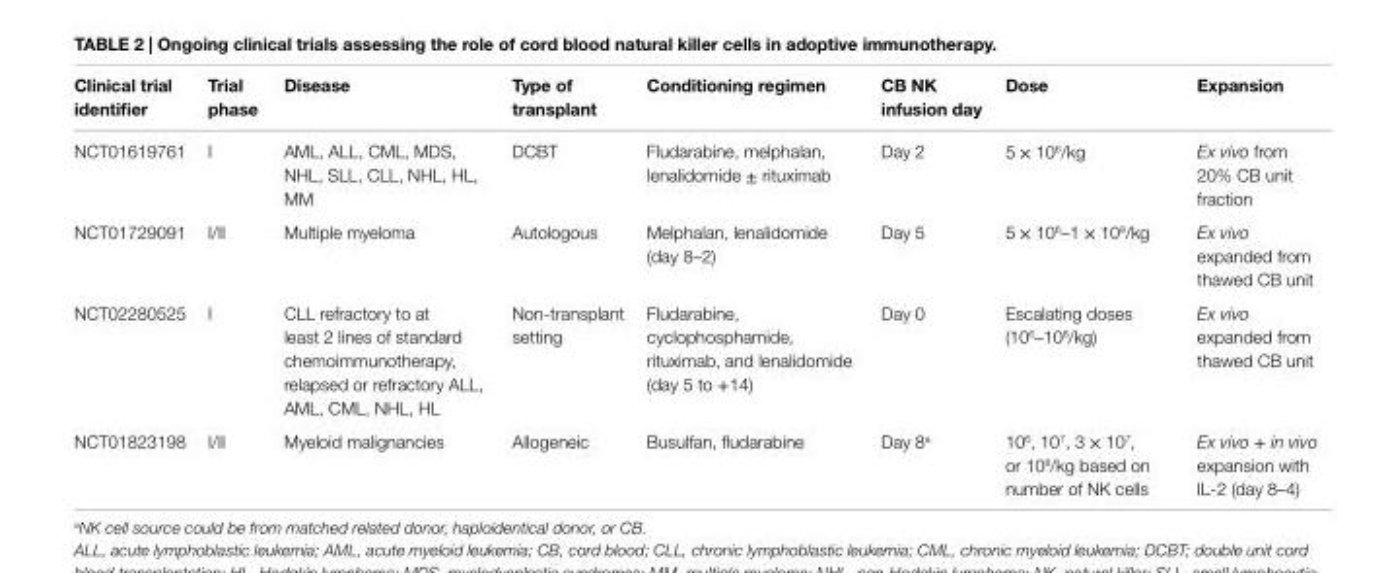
<table><thead><tr><td>Clinical trial identifier</td><td>Trial phase</td><td>Disease</td><td>Type of transplant</td><td>Conditioning regimen</td><td>CB nK infusion day</td><td>Dose</td><td>expansion</td></tr></thead><tbody><tr><td>NCT01619761</td><td>I</td><td>AML, ALL, CML, MDS, NHL, SLL, CLL, NHL, HL, MM</td><td>DCBT</td><td>Fludarabine, melphalan, lenalidomide ± rituximab</td><td>Day 2</td><td>5 × 10<sup>6</sup>/kg</td><td>Ex vivo from 20% CB unit fraction</td></tr><tr><td>NCT01729091</td><td>I/II</td><td>Multiple myeloma</td><td>Autologous</td><td>Melphalan, lenalidomide (day 8–2)</td><td>Day 5</td><td>5 × 10<sup>6</sup>–1 × 10<sup>8</sup>/kg</td><td>Ex vivo expanded from thawed CB unit</td></tr><tr><td>NCT02280525</td><td>I</td><td>CLL refractory to at least 2 lines of standard chemoimmunotherapy, relapsed or refractory ALL, AML, CML, NHL, HL</td><td>Non-transplant setting</td><td>Fludarabine, cyclophosphamide, rituximab, and lenalidomide (day 5 to +14)</td><td>Day 0</td><td>Escalating doses (10<sup>6</sup>–10<sup>8</sup>/kg)</td><td>Ex vivo expanded from thawed CB unit</td></tr><tr><td>NCT01823198</td><td>I/II</td><td>Myeloid malignancies</td><td>Allogeneic</td><td>Busulfan, fludarabine</td><td>Day 8<sup>a</sup></td><td>10<sup>6</sup>, 10<sup>7</sup>, 3 × 10<sup>7</sup>, or 10<sup>8</sup>/kg based on number of NK cells</td><td>Ex vivo + in vivo expansion with IL-2 (day 8–4)</td></tr></tbody></table>